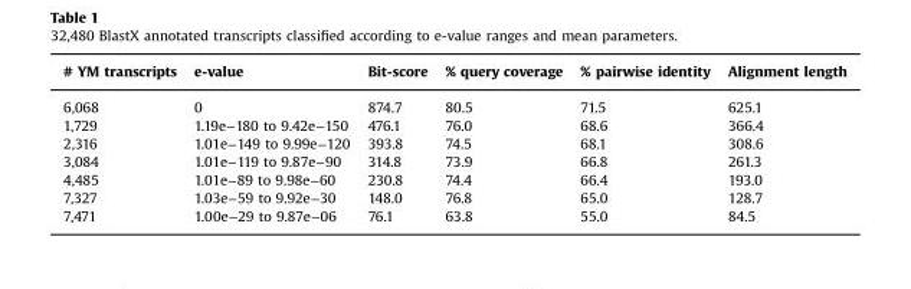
<table><thead><tr><td># YM transcripts</td><td>e-value</td><td>Bit-score</td><td>% query coverage</td><td>% pairwise identity</td><td>Alignment length</td></tr></thead><tbody><tr><td>6,068</td><td>0</td><td>874.7</td><td>80.5</td><td>71.5</td><td>625.1</td></tr><tr><td>1,729</td><td>1.19e−180 to 9.42e−150</td><td>476.1</td><td>76.0</td><td>68.6</td><td>366.4</td></tr><tr><td>2,316</td><td>1.01e−149 to 9.99e−120</td><td>393.8</td><td>74.5</td><td>68.1</td><td>308.6</td></tr><tr><td>3,084</td><td>1.01e−119 to 9.87e−90</td><td>314.8</td><td>73.9</td><td>66.8</td><td>261.3</td></tr><tr><td>4,485</td><td>1.01e−89 to 9.98e−60</td><td>230.8</td><td>74.4</td><td>66.4</td><td>193.0</td></tr><tr><td>7,327</td><td>1.03e−59 to 9.92e−30</td><td>148.0</td><td>76.8</td><td>65.0</td><td>128.7</td></tr><tr><td>7,471</td><td>1.00e−29 to 9.87e−06</td><td>76.1</td><td>63.8</td><td>55.0</td><td>84.5</td></tr></tbody></table>